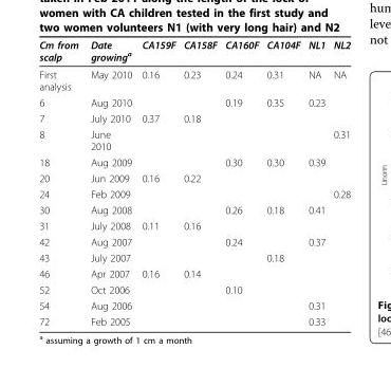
<table><thead><tr><td>Cm from scalp</td><td>Date growing<sup>a</sup></td><td>CA159F</td><td>CA158F</td><td>CA160F</td><td>CA104F</td><td>NL1</td><td>NL2</td></tr></thead><tbody><tr><td>First analysis</td><td>May 2010</td><td>0.16</td><td>0.23</td><td>0.24</td><td>0.31</td><td>NA</td><td>NA</td></tr><tr><td>6</td><td>Aug 2010</td><td></td><td></td><td>0.19</td><td>0.35</td><td>0.23</td><td></td></tr><tr><td>7</td><td>July 2010</td><td>0.37</td><td>0.18</td><td></td><td></td><td></td><td></td></tr><tr><td>8</td><td>June 2010</td><td></td><td></td><td></td><td></td><td></td><td>0.31</td></tr><tr><td>18</td><td>Aug 2009</td><td></td><td></td><td>0.30</td><td>0.30</td><td>0.39</td><td></td></tr><tr><td>20</td><td>Jun 2009</td><td>0.16</td><td>0.22</td><td></td><td></td><td></td><td></td></tr><tr><td>24</td><td>Feb 2009</td><td></td><td></td><td></td><td></td><td></td><td>0.28</td></tr><tr><td>30</td><td>Aug 2008</td><td></td><td></td><td>0.26</td><td>0.18</td><td>0.41</td><td></td></tr><tr><td>31</td><td>July 2008</td><td>0.11</td><td>0.16</td><td></td><td></td><td></td><td></td></tr><tr><td>42</td><td>Aug 2007</td><td></td><td></td><td>0.24</td><td></td><td>0.37</td><td></td></tr><tr><td>43</td><td>July 2007</td><td></td><td></td><td></td><td>0.18</td><td></td><td></td></tr><tr><td>46</td><td>Apr 2007</td><td>0.16</td><td>0.14</td><td></td><td></td><td></td><td></td></tr><tr><td>52</td><td>Oct 2006</td><td></td><td></td><td>0.10</td><td></td><td></td><td></td></tr><tr><td>54</td><td>Aug 2006</td><td></td><td></td><td></td><td></td><td>0.31</td><td></td></tr><tr><td>72</td><td>Feb 2005</td><td></td><td></td><td></td><td></td><td>0.33</td><td></td></tr></tbody></table>